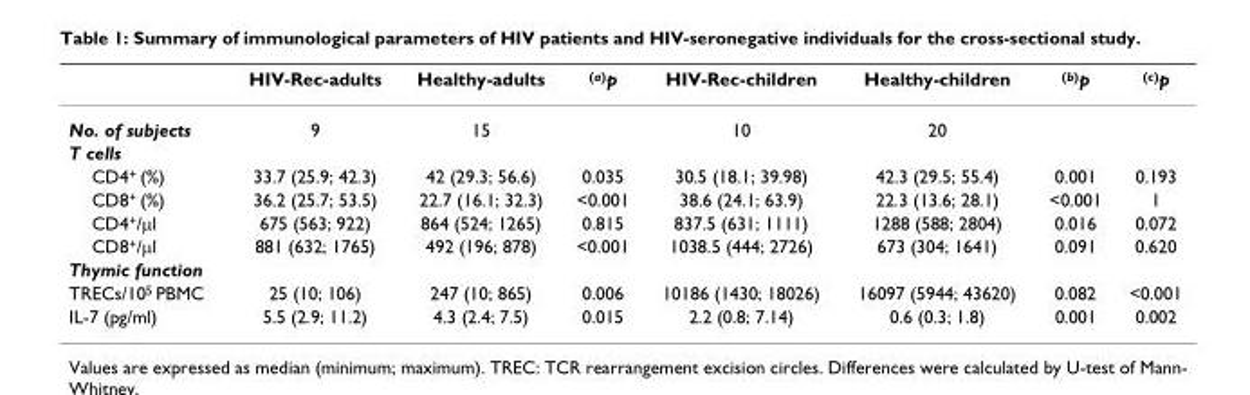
<table><thead><tr><td></td><td>HIV-Rec-adults</td><td>Healthy-adults</td><td><sup>(a)</sup>p</td><td>HIV-Rec-children</td><td>Healthy-children</td><td><sup>(b)</sup>p</td><td><sup>(c)</sup>p</td></tr></thead><tbody><tr><td>No. of subjects</td><td>9</td><td>15</td><td></td><td>10</td><td>20</td><td></td><td></td></tr><tr><td colspan="8">T cells</td></tr><tr><td>CD4<sup>+</sup> (%)</td><td>33.7 (25.9; 42.3)</td><td>42 (29.3; 56.6)</td><td>0.035</td><td>30.5 (18.1; 39.98)</td><td>42.3 (29.5; 55.4)</td><td>0.001</td><td>0.193</td></tr><tr><td>CD8<sup>+</sup> (%)</td><td>36.2 (25.7; 53.5)</td><td>22.7 (16.1; 32.3)</td><td>&lt;0.001</td><td>38.6 (24.1; 63.9)</td><td>22.3 (13.6; 28.1)</td><td>&lt;0.001</td><td>1</td></tr><tr><td>CD4<sup>+</sup>/µl</td><td>675 (563; 922)</td><td>864 (524; 1265)</td><td>0.815</td><td>837.5 (631; 1111)</td><td>1288 (588; 2804)</td><td>0.016</td><td>0.072</td></tr><tr><td>CD8<sup>+</sup>/µl</td><td>881 (632; 1765)</td><td>492 (196; 878)</td><td>&lt;0.001</td><td>1038.5 (444; 2726)</td><td>673 (304; 1641)</td><td>0.091</td><td>0.620</td></tr><tr><td colspan="8">Thymic function</td></tr><tr><td>TRECs/10<sup>5</sup> PBMC</td><td>25 (10; 106)</td><td>247 (10; 865)</td><td>0.006</td><td>10186 (1430; 18026)</td><td>16097 (5944; 43620)</td><td>0.082</td><td>&lt;0.001</td></tr><tr><td>IL-7 (pg/ml)</td><td>5.5 (2.9; 11.2)</td><td>4.3 (2.4; 7.5)</td><td>0.015</td><td>2.2 (0.8; 7.14)</td><td>0.6 (0.3; 1.8)</td><td>0.001</td><td>0.002</td></tr></tbody></table>